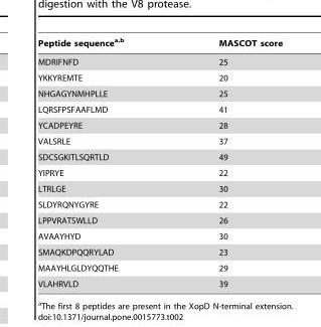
<table><thead><tr><td>Peptide sequencea,b</td><td>MASCOT score</td></tr></thead><tbody><tr><td>MDRIFNFD</td><td>25</td></tr><tr><td>YKKYREMTE</td><td>20</td></tr><tr><td>NHGAGYNMHPLLE</td><td>25</td></tr><tr><td>LQRSFPSFAAFLMD</td><td>41</td></tr><tr><td>YCADPEYRE</td><td>28</td></tr><tr><td>VALSRLE</td><td>37</td></tr><tr><td>SDCSGKITLSQRTLD</td><td>49</td></tr><tr><td>YIPRYE</td><td>22</td></tr><tr><td>LTRLGE</td><td>30</td></tr><tr><td>SLDYRQNYGYRE</td><td>22</td></tr><tr><td>LPPVRATSWLLD</td><td>26</td></tr><tr><td>AVAAYHYD</td><td>30</td></tr><tr><td>SMAQKDPQQRYLAD</td><td>23</td></tr><tr><td>MAAYHLGLDYQQTHE</td><td>29</td></tr><tr><td>VLAHRVLD</td><td>39</td></tr></tbody></table>